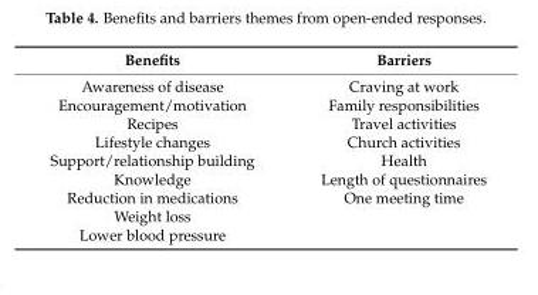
<table><thead><tr><td>Benefits</td><td>Barriers</td></tr></thead><tbody><tr><td>Awareness of disease</td><td>Craving at work</td></tr><tr><td>Encouragement/motivation</td><td>Family responsibilities</td></tr><tr><td>Recipes</td><td>Travel activities</td></tr><tr><td>Lifestyle changes</td><td>Church activities</td></tr><tr><td>Support/relationship building</td><td>Health</td></tr><tr><td>Knowledge</td><td>Length of questionnaires</td></tr><tr><td>Reduction in medications</td><td>One meeting time</td></tr><tr><td colspan="2">Weight loss</td></tr><tr><td>Lower blood pressure</td><td></td></tr></tbody></table>